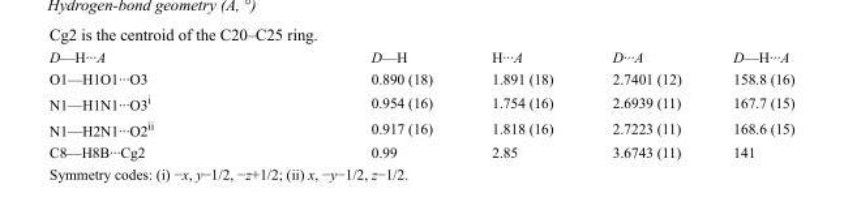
<table><tbody><tr><td>D—H···A</td><td>D—H</td><td>H···A</td><td>D···A</td><td>D—H···A</td></tr><tr><td>O1—H1O1···O3</td><td>0.890 (18)</td><td>1.891 (18)</td><td>2.7401 (12)</td><td>158.8 (16)</td></tr><tr><td>N1—H1N1···O3<sup>i</sup></td><td>0.954 (16)</td><td>1.754 (16)</td><td>2.6939 (11)</td><td>167.7 (15)</td></tr><tr><td>N1—H2N1···O2<sup>ii</sup></td><td>0.917 (16)</td><td>1.818 (16)</td><td>2.7223 (11)</td><td>168.6 (15)</td></tr><tr><td>C8—H8B···Cg2</td><td>0.99</td><td>2.85</td><td>3.6743 (11)</td><td>141</td></tr></tbody></table>